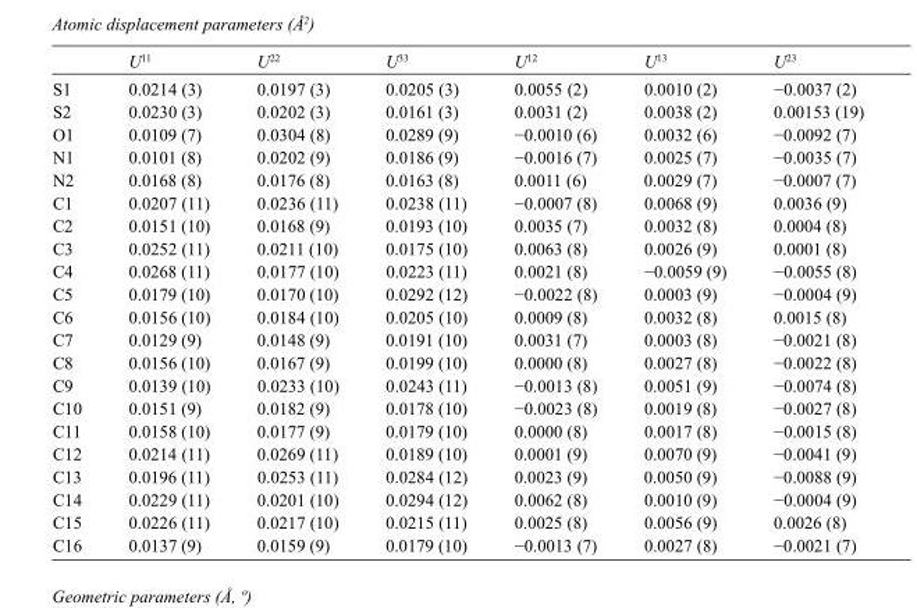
<table><thead><tr><td></td><td>U<sup>11</sup></td><td>U<sup>22</sup></td><td>U<sup>33</sup></td><td>U<sup>12</sup></td><td>U<sup>13</sup></td><td>U<sup>23</sup></td></tr></thead><tbody><tr><td>S1</td><td>0.0214 (3)</td><td>0.0197 (3)</td><td>0.0205 (3)</td><td>0.0055 (2)</td><td>0.0010 (2)</td><td>−0.0037 (2)</td></tr><tr><td>S2</td><td>0.0230 (3)</td><td>0.0202 (3)</td><td>0.0161 (3)</td><td>0.0031 (2)</td><td>0.0038 (2)</td><td>0.00153 (19)</td></tr><tr><td>O1</td><td>0.0109 (7)</td><td>0.0304 (8)</td><td>0.0289 (9)</td><td>−0.0010 (6)</td><td>0.0032 (6)</td><td>−0.0092 (7)</td></tr><tr><td>N1</td><td>0.0101 (8)</td><td>0.0202 (9)</td><td>0.0186 (9)</td><td>−0.0016 (7)</td><td>0.0025 (7)</td><td>−0.0035 (7)</td></tr><tr><td>N2</td><td>0.0168 (8)</td><td>0.0176 (8)</td><td>0.0163 (8)</td><td>0.0011 (6)</td><td>0.0029 (7)</td><td>−0.0007 (7)</td></tr><tr><td>C1</td><td>0.0207 (11)</td><td>0.0236 (11)</td><td>0.0238 (11)</td><td>−0.0007 (8)</td><td>0.0068 (9)</td><td>0.0036 (9)</td></tr><tr><td>C2</td><td>0.0151 (10)</td><td>0.0168 (9)</td><td>0.0193 (10)</td><td>0.0035 (7)</td><td>0.0032 (8)</td><td>0.0004 (8)</td></tr><tr><td>C3</td><td>0.0252 (11)</td><td>0.0211 (10)</td><td>0.0175 (10)</td><td>0.0063 (8)</td><td>0.0026 (9)</td><td>0.0001 (8)</td></tr><tr><td>C4</td><td>0.0268 (11)</td><td>0.0177 (10)</td><td>0.0223 (11)</td><td>0.0021 (8)</td><td>−0.0059 (9)</td><td>−0.0055 (8)</td></tr><tr><td>C5</td><td>0.0179 (10)</td><td>0.0170 (10)</td><td>0.0292 (12)</td><td>−0.0022 (8)</td><td>0.0003 (9)</td><td>−0.0004 (9)</td></tr><tr><td>C6</td><td>0.0156 (10)</td><td>0.0184 (10)</td><td>0.0205 (10)</td><td>0.0009 (8)</td><td>0.0032 (8)</td><td>0.0015 (8)</td></tr><tr><td>C7</td><td>0.0129 (9)</td><td>0.0148 (9)</td><td>0.0191 (10)</td><td>0.0031 (7)</td><td>0.0003 (8)</td><td>−0.0021 (8)</td></tr><tr><td>C8</td><td>0.0156 (10)</td><td>0.0167 (9)</td><td>0.0199 (10)</td><td>0.0000 (8)</td><td>0.0027 (8)</td><td>−0.0022 (8)</td></tr><tr><td>C9</td><td>0.0139 (10)</td><td>0.0233 (10)</td><td>0.0243 (11)</td><td>−0.0013 (8)</td><td>0.0051 (9)</td><td>−0.0074 (8)</td></tr><tr><td>C10</td><td>0.0151 (9)</td><td>0.0182 (9)</td><td>0.0178 (10)</td><td>−0.0023 (8)</td><td>0.0019 (8)</td><td>−0.0027 (8)</td></tr><tr><td>C11</td><td>0.0158 (10)</td><td>0.0177 (9)</td><td>0.0179 (10)</td><td>0.0000 (8)</td><td>0.0017 (8)</td><td>−0.0015 (8)</td></tr><tr><td>C12</td><td>0.0214 (11)</td><td>0.0269 (11)</td><td>0.0189 (10)</td><td>0.0001 (9)</td><td>0.0070 (9)</td><td>−0.0041 (9)</td></tr><tr><td>C13</td><td>0.0196 (11)</td><td>0.0253 (11)</td><td>0.0284 (12)</td><td>0.0023 (9)</td><td>0.0050 (9)</td><td>−0.0088 (9)</td></tr><tr><td>C14</td><td>0.0229 (11)</td><td>0.0201 (10)</td><td>0.0294 (12)</td><td>0.0062 (8)</td><td>0.0010 (9)</td><td>−0.0004 (9)</td></tr><tr><td>C15</td><td>0.0226 (11)</td><td>0.0217 (10)</td><td>0.0215 (11)</td><td>0.0025 (8)</td><td>0.0056 (9)</td><td>0.0026 (8)</td></tr><tr><td>C16</td><td>0.0137 (9)</td><td>0.0159 (9)</td><td>0.0179 (10)</td><td>−0.0013 (7)</td><td>0.0027 (8)</td><td>−0.0021 (7)</td></tr></tbody></table>